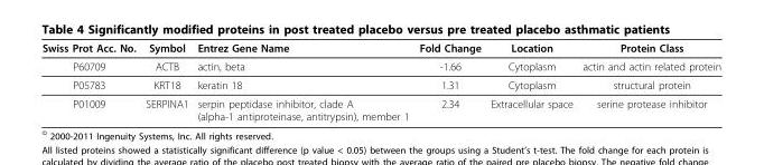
<table><thead><tr><td>Swiss Prot Acc. No.</td><td>Symbol</td><td>Entrez Gene Name</td><td>Fold Change</td><td>Location</td><td>Protein Class</td></tr></thead><tbody><tr><td>P60709</td><td>ACTB</td><td>actin, beta</td><td>-1.66</td><td>Cytoplasm</td><td>actin and actin related protein</td></tr><tr><td>P05783</td><td>KRT18</td><td>keratin 18</td><td>1.31</td><td>Cytoplasm</td><td>structural protein</td></tr><tr><td>P01009</td><td>SERPINA1</td><td>serpin peptidase inhibitor, clade A (alpha-1 antiproteinase, antitrypsin), member 1</td><td>2.34</td><td>Extracellular space</td><td>serine protease inhibitor</td></tr></tbody></table>